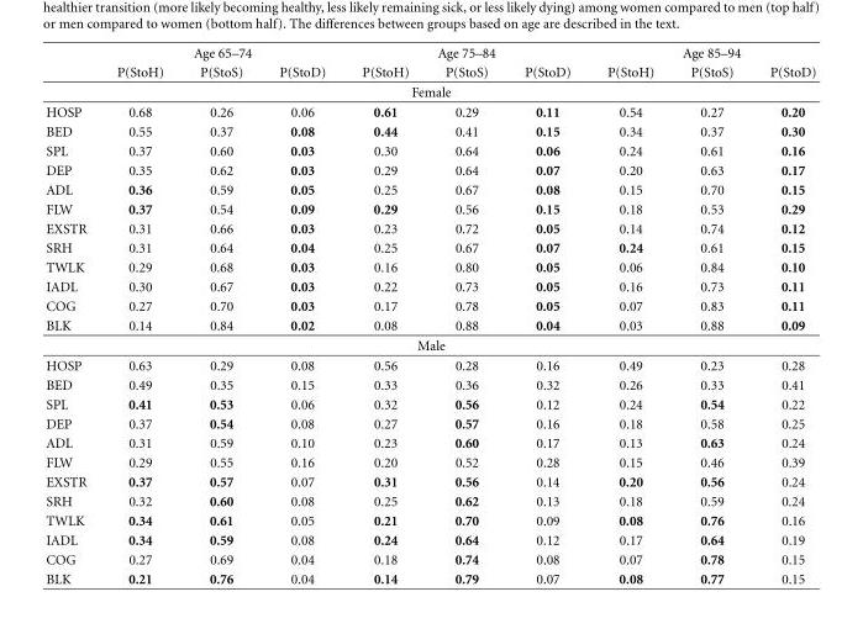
<table><thead><tr><td rowspan="2"></td><td colspan="3">Age 65–74</td><td colspan="3">Age 75–84</td><td colspan="3">Age 85–94</td></tr><tr><td>P(StoH)</td><td>P(StoS)</td><td>P(StoD)</td><td>P(StoH)</td><td>P(StoS)</td><td>P(StoD)</td><td>P(StoH)</td><td>P(StoS)</td><td>P(StoD)</td></tr></thead><tbody><tr><td colspan="10">Female</td></tr><tr><td>HOSP</td><td>0.68</td><td>0.26</td><td>0.06</td><td>0.61</td><td>0.29</td><td>0.11</td><td>0.54</td><td>0.27</td><td>0.20</td></tr><tr><td>BED</td><td>0.55</td><td>0.37</td><td>0.08</td><td>0.44</td><td>0.41</td><td>0.15</td><td>0.34</td><td>0.37</td><td>0.30</td></tr><tr><td>SPL</td><td>0.37</td><td>0.60</td><td>0.03</td><td>0.30</td><td>0.64</td><td>0.06</td><td>0.24</td><td>0.61</td><td>0.16</td></tr><tr><td>DEP</td><td>0.35</td><td>0.62</td><td>0.03</td><td>0.29</td><td>0.64</td><td>0.07</td><td>0.20</td><td>0.63</td><td>0.17</td></tr><tr><td>ADL</td><td>0.36</td><td>0.59</td><td>0.05</td><td>0.25</td><td>0.67</td><td>0.08</td><td>0.15</td><td>0.70</td><td>0.15</td></tr><tr><td>FLW</td><td>0.37</td><td>0.54</td><td>0.09</td><td>0.29</td><td>0.56</td><td>0.15</td><td>0.18</td><td>0.53</td><td>0.29</td></tr><tr><td>EXSTR</td><td>0.31</td><td>0.66</td><td>0.03</td><td>0.23</td><td>0.72</td><td>0.05</td><td>0.14</td><td>0.74</td><td>0.12</td></tr><tr><td>SRH</td><td>0.31</td><td>0.64</td><td>0.04</td><td>0.25</td><td>0.67</td><td>0.07</td><td>0.24</td><td>0.61</td><td>0.15</td></tr><tr><td>TWLK</td><td>0.29</td><td>0.68</td><td>0.03</td><td>0.16</td><td>0.80</td><td>0.05</td><td>0.06</td><td>0.84</td><td>0.10</td></tr><tr><td>IADL</td><td>0.30</td><td>0.67</td><td>0.03</td><td>0.22</td><td>0.73</td><td>0.05</td><td>0.16</td><td>0.73</td><td>0.11</td></tr><tr><td>COG</td><td>0.27</td><td>0.70</td><td>0.03</td><td>0.17</td><td>0.78</td><td>0.05</td><td>0.07</td><td>0.83</td><td>0.11</td></tr><tr><td>BLK</td><td>0.14</td><td>0.84</td><td>0.02</td><td>0.08</td><td>0.88</td><td>0.04</td><td>0.03</td><td>0.88</td><td>0.09</td></tr><tr><td colspan="10">Male</td></tr><tr><td>HOSP</td><td>0.63</td><td>0.29</td><td>0.08</td><td>0.56</td><td>0.28</td><td>0.16</td><td>0.49</td><td>0.23</td><td>0.28</td></tr><tr><td>BED</td><td>0.49</td><td>0.35</td><td>0.15</td><td>0.33</td><td>0.36</td><td>0.32</td><td>0.26</td><td>0.33</td><td>0.41</td></tr><tr><td>SPL</td><td>0.41</td><td>0.53</td><td>0.06</td><td>0.32</td><td>0.56</td><td>0.12</td><td>0.24</td><td>0.54</td><td>0.22</td></tr><tr><td>DEP</td><td>0.37</td><td>0.54</td><td>0.08</td><td>0.27</td><td>0.57</td><td>0.16</td><td>0.18</td><td>0.58</td><td>0.25</td></tr><tr><td>ADL</td><td>0.31</td><td>0.59</td><td>0.10</td><td>0.23</td><td>0.60</td><td>0.17</td><td>0.13</td><td>0.63</td><td>0.24</td></tr><tr><td>FLW</td><td>0.29</td><td>0.55</td><td>0.16</td><td>0.20</td><td>0.52</td><td>0.28</td><td>0.15</td><td>0.46</td><td>0.39</td></tr><tr><td>EXSTR</td><td>0.37</td><td>0.57</td><td>0.07</td><td>0.31</td><td>0.56</td><td>0.14</td><td>0.20</td><td>0.56</td><td>0.24</td></tr><tr><td>SRH</td><td>0.32</td><td>0.60</td><td>0.08</td><td>0.25</td><td>0.62</td><td>0.13</td><td>0.18</td><td>0.59</td><td>0.24</td></tr><tr><td>TWLK</td><td>0.34</td><td>0.61</td><td>0.05</td><td>0.21</td><td>0.70</td><td>0.09</td><td>0.08</td><td>0.76</td><td>0.16</td></tr><tr><td>IADL</td><td>0.34</td><td>0.59</td><td>0.08</td><td>0.24</td><td>0.64</td><td>0.12</td><td>0.17</td><td>0.64</td><td>0.19</td></tr><tr><td>COG</td><td>0.27</td><td>0.69</td><td>0.04</td><td>0.18</td><td>0.74</td><td>0.08</td><td>0.07</td><td>0.78</td><td>0.15</td></tr><tr><td>BLK</td><td>0.21</td><td>0.76</td><td>0.04</td><td>0.14</td><td>0.79</td><td>0.07</td><td>0.08</td><td>0.77</td><td>0.15</td></tr></tbody></table>